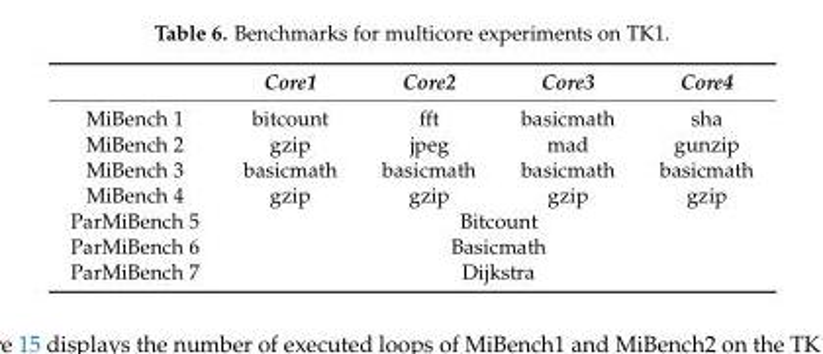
<table><thead><tr><td></td><td>Core1</td><td>Core2</td><td>Core3</td><td>Core4</td></tr></thead><tbody><tr><td>MiBench 1</td><td>bitcount</td><td>fft</td><td>basicmath</td><td>sha</td></tr><tr><td>MiBench 2</td><td>gzip</td><td>jpeg</td><td>mad</td><td>gunzip</td></tr><tr><td>MiBench 3</td><td>basicmath</td><td>basicmath</td><td>basicmath</td><td>basicmath</td></tr><tr><td>MiBench 4</td><td>gzip</td><td>gzip</td><td>gzip</td><td>gzip</td></tr><tr><td>ParMiBench 5</td><td colspan="4">Bitcount</td></tr><tr><td>ParMiBench 6</td><td colspan="4">Basicmath</td></tr><tr><td>ParMiBench 7</td><td colspan="4">Dijkstra</td></tr></tbody></table>